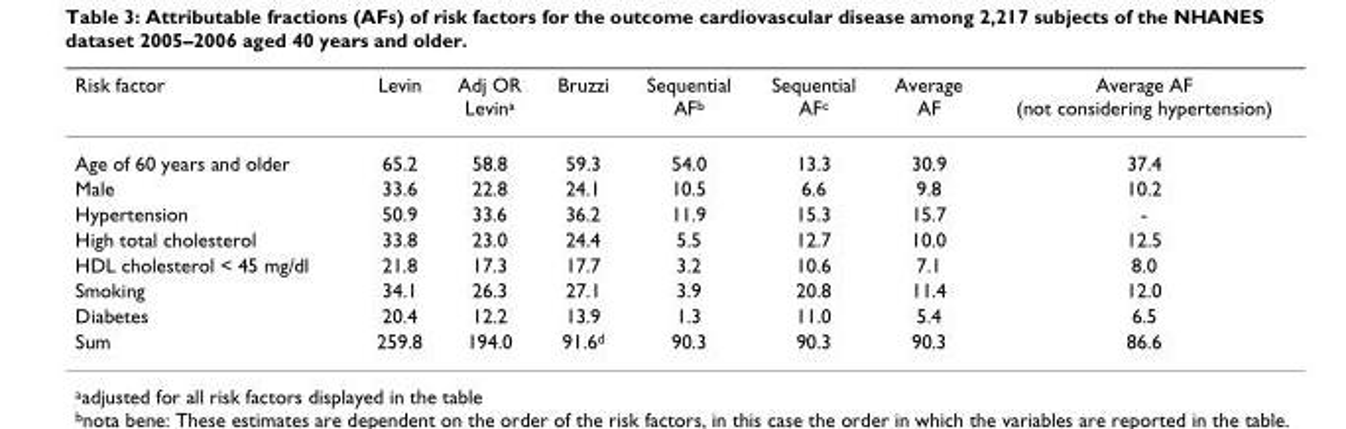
<table><thead><tr><td>Risk factor</td><td>Levin</td><td>Adj OR Levin<sup>a</sup></td><td>Bruzzi</td><td>Sequential AF<sup>b</sup></td><td>Sequential AF<sup>c</sup></td><td>Average AF</td><td>Average AF (not considering hypertension)</td></tr></thead><tbody><tr><td>Age of 60 years and older</td><td>65.2</td><td>58.8</td><td>59.3</td><td>54.0</td><td>13.3</td><td>30.9</td><td>37.4</td></tr><tr><td>Male</td><td>33.6</td><td>22.8</td><td>24.1</td><td>10.5</td><td>6.6</td><td>9.8</td><td>10.2</td></tr><tr><td>Hypertension</td><td>50.9</td><td>33.6</td><td>36.2</td><td>11.9</td><td>15.3</td><td>15.7</td><td>-</td></tr><tr><td>High total cholesterol</td><td>33.8</td><td>23.0</td><td>24.4</td><td>5.5</td><td>12.7</td><td>10.0</td><td>12.5</td></tr><tr><td>HDL cholesterol &lt; 45 mg/dl</td><td>21.8</td><td>17.3</td><td>17.7</td><td>3.2</td><td>10.6</td><td>7.1</td><td>8.0</td></tr><tr><td>Smoking</td><td>34.1</td><td>26.3</td><td>27.1</td><td>3.9</td><td>20.8</td><td>11.4</td><td>12.0</td></tr><tr><td>Diabetes</td><td>20.4</td><td>12.2</td><td>13.9</td><td>1.3</td><td>11.0</td><td>5.4</td><td>6.5</td></tr><tr><td>Sum</td><td>259.8</td><td>194.0</td><td>91.6<sup>d</sup></td><td>90.3</td><td>90.3</td><td>90.3</td><td>86.6</td></tr></tbody></table>